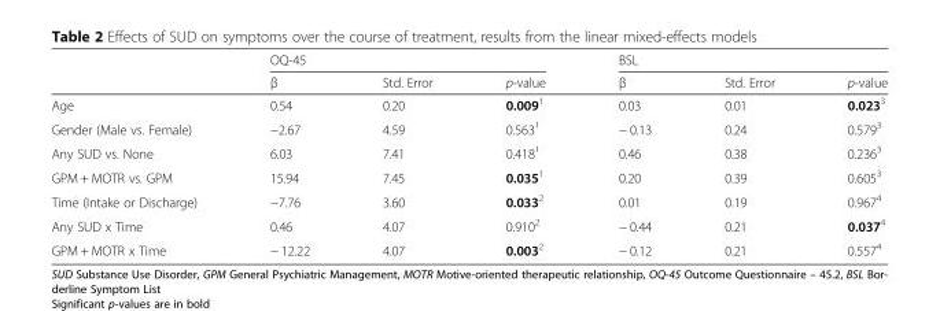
<table><thead><tr><td rowspan="2"></td><td colspan="3">OQ-45</td><td colspan="3">BSL</td></tr><tr><td>β</td><td>Std. Error</td><td>p-value</td><td>β</td><td>Std. Error</td><td>p-value</td></tr></thead><tbody><tr><td>Age</td><td>0.54</td><td>0.20</td><td>0.009<sup>1</sup></td><td>0.03</td><td>0.01</td><td>0.023<sup>3</sup></td></tr><tr><td>Gender (Male vs. Female)</td><td>−2.67</td><td>4.59</td><td>0.563<sup>1</sup></td><td>− 0.13</td><td>0.24</td><td>0.579<sup>3</sup></td></tr><tr><td>Any SUD vs. None</td><td>6.03</td><td>7.41</td><td>0.418<sup>1</sup></td><td>0.46</td><td>0.38</td><td>0.236<sup>3</sup></td></tr><tr><td>GPM + MOTR vs. GPM</td><td>15.94</td><td>7.45</td><td>0.035<sup>1</sup></td><td>0.20</td><td>0.39</td><td>0.605<sup>3</sup></td></tr><tr><td>Time (Intake or Discharge)</td><td>−7.76</td><td>3.60</td><td>0.033<sup>2</sup></td><td>0.01</td><td>0.19</td><td>0.967<sup>4</sup></td></tr><tr><td>Any SUD x Time</td><td>0.46</td><td>4.07</td><td>0.910<sup>2</sup></td><td>− 0.44</td><td>0.21</td><td>0.037<sup>4</sup></td></tr><tr><td>GPM + MOTR x Time</td><td>− 12.22</td><td>4.07</td><td>0.003<sup>2</sup></td><td>− 0.12</td><td>0.21</td><td>0.557<sup>4</sup></td></tr></tbody></table>